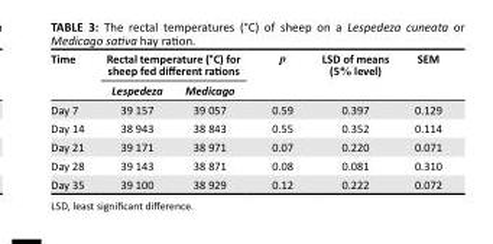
<table><thead><tr><td rowspan="2">Time</td><td colspan="2">Rectal temperature (°C) for sheep fed different rations</td><td rowspan="2">p</td><td rowspan="2">LSD of means (5% level)</td><td rowspan="2">SEM</td></tr><tr><td>Lespedeza</td><td>Medicago</td></tr></thead><tbody><tr><td>Day 7</td><td>39 157</td><td>39 057</td><td>0.59</td><td>0.397</td><td>0.129</td></tr><tr><td>Day 14</td><td>38 943</td><td>38 843</td><td>0.55</td><td>0.352</td><td>0.114</td></tr><tr><td>Day 21</td><td>39 171</td><td>38 971</td><td>0.07</td><td>0.220</td><td>0.071</td></tr><tr><td>Day 28</td><td>39 143</td><td>38 871</td><td>0.08</td><td>0.081</td><td>0.310</td></tr><tr><td>Day 35</td><td>39 100</td><td>38 929</td><td>0.12</td><td>0.222</td><td>0.072</td></tr></tbody></table>